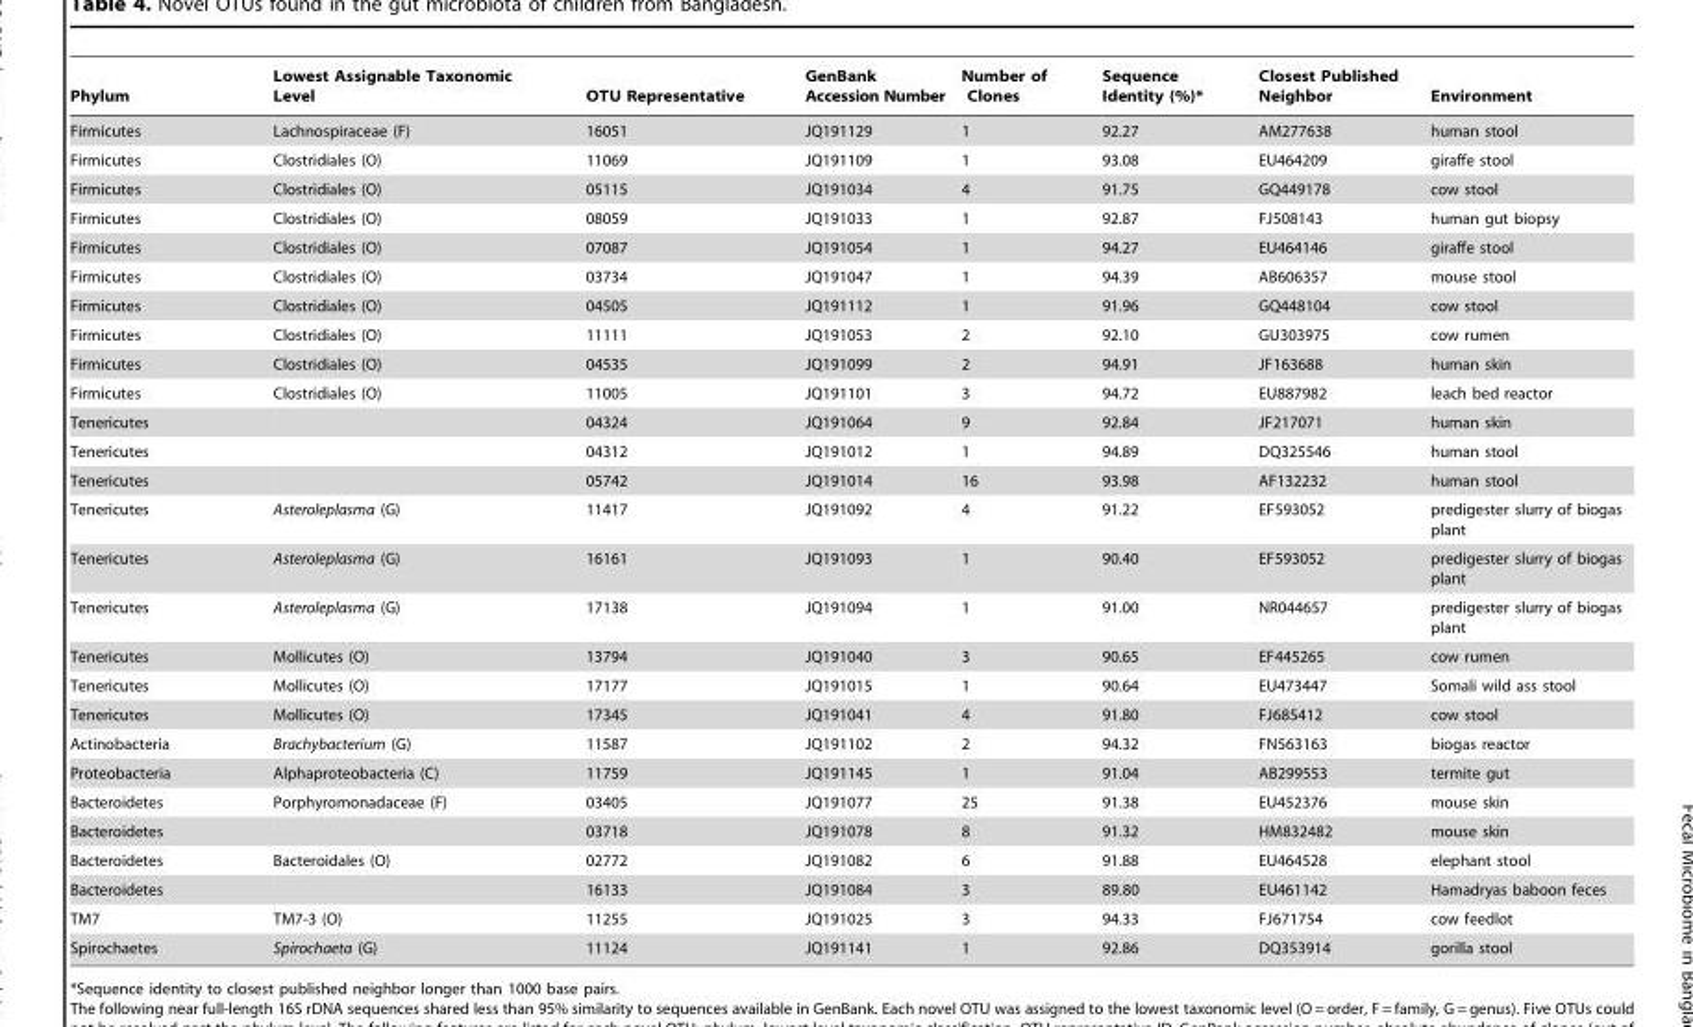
<table><thead><tr><td>Phylum</td><td>Lowest Assignable Taxonomic Level</td><td>OTU Representative</td><td>GenBank Accession Number</td><td>Number of Clones</td><td>Sequence Identity (%)*</td><td>Closest Published Neighbor</td><td>Environment</td></tr></thead><tbody><tr><td>Firmicutes</td><td>Lachnospiraceae (F)</td><td>16051</td><td>JQ191129</td><td>1</td><td>92.27</td><td>AM277638</td><td>human stool</td></tr><tr><td>Firmicutes</td><td>Clostridiales (O)</td><td>11069</td><td>JQ191109</td><td>1</td><td>93.08</td><td>EU464209</td><td>giraffe stool</td></tr><tr><td>Firmicutes</td><td>Clostridiales (O)</td><td>05115</td><td>JQ191034</td><td>4</td><td>91.75</td><td>GQ449178</td><td>cow stool</td></tr><tr><td>Firmicutes</td><td>Clostridiales (O)</td><td>08059</td><td>JQ191033</td><td>1</td><td>92.87</td><td>FJ508143</td><td>human gut biopsy</td></tr><tr><td>Firmicutes</td><td>Clostridiales (O)</td><td>07087</td><td>JQ191054</td><td>1</td><td>94.27</td><td>EU464146</td><td>giraffe stool</td></tr><tr><td>Firmicutes</td><td>Clostridiales (O)</td><td>03734</td><td>JQ191047</td><td>1</td><td>94.39</td><td>AB606357</td><td>mouse stool</td></tr><tr><td>Firmicutes</td><td>Clostridiales (O)</td><td>04505</td><td>JQ191112</td><td>1</td><td>91.96</td><td>GQ448104</td><td>cow stool</td></tr><tr><td>Firmicutes</td><td>Clostridiales (O)</td><td>11111</td><td>JQ191053</td><td>2</td><td>92.10</td><td>GU303975</td><td>cow rumen</td></tr><tr><td>Firmicutes</td><td>Clostridiales (O)</td><td>04535</td><td>JQ191099</td><td>2</td><td>94.91</td><td>JF163688</td><td>human skin</td></tr><tr><td>Firmicutes</td><td>Clostridiales (O)</td><td>11005</td><td>JQ191101</td><td>3</td><td>94.72</td><td>EU887982</td><td>leach bed reactor</td></tr><tr><td>Tenericutes</td><td></td><td>04324</td><td>JQ191064</td><td>9</td><td>92.84</td><td>JF217071</td><td>human skin</td></tr><tr><td>Tenericutes</td><td></td><td>04312</td><td>JQ191012</td><td>1</td><td>94.89</td><td>DQ325546</td><td>human stool</td></tr><tr><td>Tenericutes</td><td></td><td>05742</td><td>JQ191014</td><td>16</td><td>93.98</td><td>AF132232</td><td>human stool</td></tr><tr><td>Tenericutes</td><td>Asteroleplasma (G)</td><td>11417</td><td>JQ191092</td><td>4</td><td>91.22</td><td>EF593052</td><td>predigester slurry of biogas plant</td></tr><tr><td>Tenericutes</td><td>Asteroleplasma (G)</td><td>16161</td><td>JQ191093</td><td>1</td><td>90.40</td><td>EF593052</td><td>predigester slurry of biogas plant</td></tr><tr><td>Tenericutes</td><td>Asteroleplasma (G)</td><td>17138</td><td>JQ191094</td><td>1</td><td>91.00</td><td>NR044657</td><td>predigester slurry of biogas plant</td></tr><tr><td>Tenericutes</td><td>Mollicutes (O)</td><td>13794</td><td>JQ191040</td><td>3</td><td>90.65</td><td>EF445265</td><td>cow rumen</td></tr><tr><td>Tenericutes</td><td>Mollicutes (O)</td><td>17177</td><td>JQ191015</td><td>1</td><td>90.64</td><td>EU473447</td><td>Somali wild ass stool</td></tr><tr><td>Tenericutes</td><td>Mollicutes (O)</td><td>17345</td><td>JQ191041</td><td>4</td><td>91.80</td><td>FJ685412</td><td>cow stool</td></tr><tr><td>Actinobacteria</td><td>Brachybacterium (G)</td><td>11587</td><td>JQ191102</td><td>2</td><td>94.32</td><td>FN563163</td><td>biogas reactor</td></tr><tr><td>Proteobacteria</td><td>Alphaproteobacteria (C)</td><td>11759</td><td>JQ191145</td><td>1</td><td>91.04</td><td>AB299553</td><td>termite gut</td></tr><tr><td>Bacteroidetes</td><td>Porphyromonadaceae (F)</td><td>03405</td><td>JQ191077</td><td>25</td><td>91.38</td><td>EU452376</td><td>mouse skin</td></tr><tr><td>Bacteroidetes</td><td></td><td>03718</td><td>JQ191078</td><td>8</td><td>91.32</td><td>HM832482</td><td>mouse skin</td></tr><tr><td>Bacteroidetes</td><td>Bacteroidales (O)</td><td>02772</td><td>JQ191082</td><td>6</td><td>91.88</td><td>EU464528</td><td>elephant stool</td></tr><tr><td>Bacteroidetes</td><td></td><td>16133</td><td>JQ191084</td><td>3</td><td>89.80</td><td>EU461142</td><td>Hamadryas baboon feces</td></tr><tr><td>TM7</td><td>TM7-3 (O)</td><td>11255</td><td>JQ191025</td><td>3</td><td>94.33</td><td>FJ671754</td><td>cow feedlot</td></tr><tr><td>Spirochaetes</td><td>Spirochaeta (G)</td><td>11124</td><td>JQ191141</td><td>1</td><td>92.86</td><td>DQ353914</td><td>gorilla stool</td></tr></tbody></table>